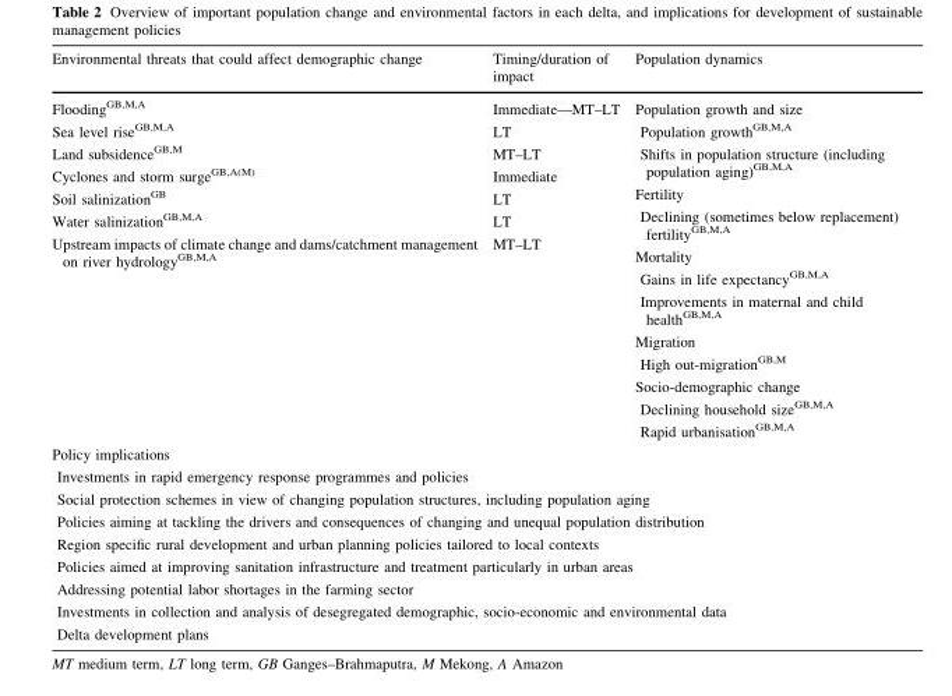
<table><thead><tr><td>Environmental threats that could affect demographic change</td><td>Timing/duration of impact</td><td>Population dynamics</td></tr></thead><tbody><tr><td rowspan="5">Flooding<sup>GB,M,A</sup> Sea level rise<sup>GB,M,A</sup> Land subsidence<sup>GB,M</sup> Cyclones and storm surge<sup>GB,A(M)</sup> Soil salinization<sup>GB</sup> Water salinization<sup>GB,M,A</sup> Upstream impacts of climate change and dams/catchment management on river hydrology<sup>GB,M,A</sup></td><td rowspan="5">Immediate—MT–LT LT MT–LT Immediate LT LT MT–LT</td><td>Population growth and size Population growth<sup>GB,M,A</sup> Shifts in population structure (including population aging)<sup>GB,M,A</sup></td></tr><tr><td>Fertility Declining (sometimes below replacement) fertility<sup>GB,M,A</sup></td></tr><tr><td>Mortality Gains in life expectancy<sup>GB,M,A</sup> Improvements in maternal and child health<sup>GB,M,A</sup></td></tr><tr><td>Migration High out-migration<sup>GB,M</sup></td></tr><tr><td>Socio-demographic change Declining household size<sup>GB,M,A</sup> Rapid urbanisation<sup>GB,M,A</sup></td></tr><tr><td colspan="3">Policy implications</td></tr><tr><td colspan="3">Investments in rapid emergency response programmes and policies</td></tr><tr><td colspan="3">Social protection schemes in view of changing population structures, including population aging</td></tr><tr><td colspan="3">Policies aiming at tackling the drivers and consequences of changing and unequal population distribution</td></tr><tr><td colspan="3">Region specific rural development and urban planning policies tailored to local contexts</td></tr><tr><td colspan="3">Policies aimed at improving sanitation infrastructure and treatment particularly in urban areas</td></tr><tr><td colspan="3">Addressing potential labor shortages in the farming sector</td></tr><tr><td colspan="3">Investments in collection and analysis of desegregated demographic, socio-economic and environmental data</td></tr><tr><td colspan="3">Delta development plans</td></tr></tbody></table>